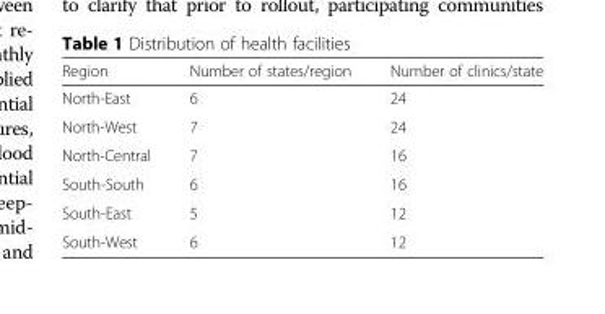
<table><thead><tr><td>Region</td><td>Number of states/region</td><td>Number of clinics/state</td></tr></thead><tbody><tr><td>North-East</td><td>6</td><td>24</td></tr><tr><td>North-West</td><td>7</td><td>24</td></tr><tr><td>North-Central</td><td>7</td><td>16</td></tr><tr><td>South-South</td><td>6</td><td>16</td></tr><tr><td>South-East</td><td>5</td><td>12</td></tr><tr><td>South-West</td><td>6</td><td>12</td></tr></tbody></table>